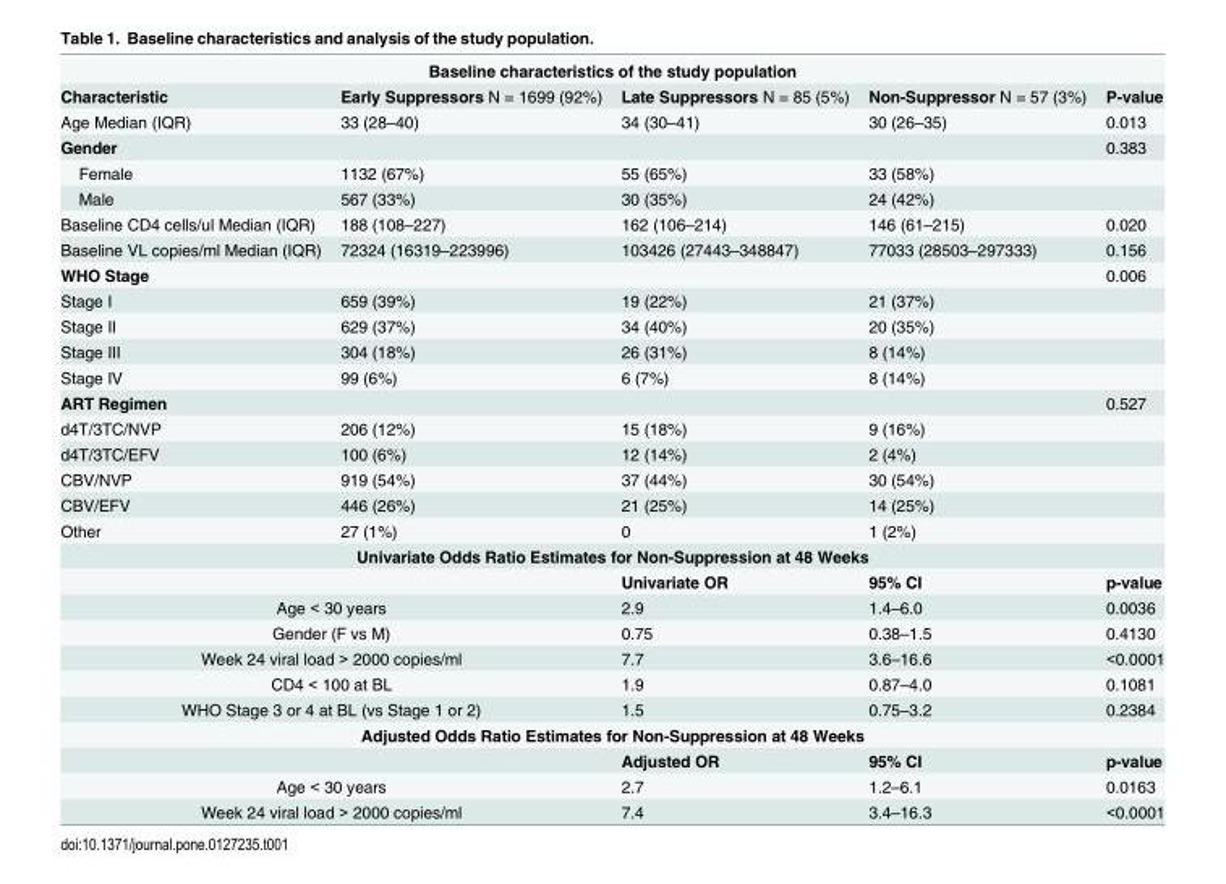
<table><tbody><tr><td colspan="5">Baseline characteristics of the study population</td></tr><tr><td>Characteristic</td><td>Early Suppressors N = 1699 (92%)</td><td>Late Suppressors N = 85 (5%)</td><td>Non-Suppressor N = 57 (3%)</td><td>P-value</td></tr><tr><td>Age Median (IQR)</td><td>33 (28–40)</td><td>34 (30–41)</td><td>30 (26–35)</td><td>0.013</td></tr><tr><td>Gender</td><td></td><td></td><td></td><td>0.383</td></tr><tr><td>Female</td><td>1132 (67%)</td><td>55 (65%)</td><td>33 (58%)</td><td></td></tr><tr><td>Male</td><td>567 (33%)</td><td>30 (35%)</td><td>24 (42%)</td><td></td></tr><tr><td>Baseline CD4 cells/ul Median (IQR)</td><td>188 (108–227)</td><td>162 (106–214)</td><td>146 (61–215)</td><td>0.020</td></tr><tr><td>Baseline VL copies/ml Median (IQR)</td><td>72324 (16319–223996)</td><td>103426 (27443–348847)</td><td>77033 (28503–297333)</td><td>0.156</td></tr><tr><td>WHO Stage</td><td></td><td></td><td></td><td>0.006</td></tr><tr><td>Stage I</td><td>659 (39%)</td><td>19 (22%)</td><td>21 (37%)</td><td></td></tr><tr><td>Stage II</td><td>629 (37%)</td><td>34 (40%)</td><td>20 (35%)</td><td></td></tr><tr><td>Stage III</td><td>304 (18%)</td><td>26 (31%)</td><td>8 (14%)</td><td></td></tr><tr><td>Stage IV</td><td>99 (6%)</td><td>6 (7%)</td><td>8 (14%)</td><td></td></tr><tr><td>ART Regimen</td><td></td><td></td><td></td><td>0.527</td></tr><tr><td>d4T/3TC/NVP</td><td>206 (12%)</td><td>15 (18%)</td><td>9 (16%)</td><td></td></tr><tr><td>d4T/3TC/EFV</td><td>100 (6%)</td><td>12 (14%)</td><td>2 (4%)</td><td></td></tr><tr><td>CBV/NVP</td><td>919 (54%)</td><td>37 (44%)</td><td>30 (54%)</td><td></td></tr><tr><td>CBV/EFV</td><td>446 (26%)</td><td>21 (25%)</td><td>14 (25%)</td><td></td></tr><tr><td>Other</td><td>27 (1%)</td><td>0</td><td>1 (2%)</td><td></td></tr><tr><td colspan="5">Univariate Odds Ratio Estimates for Non-Suppression at 48 Weeks</td></tr><tr><td colspan="2"></td><td>Univariate OR</td><td>95% CI</td><td>p-value</td></tr><tr><td colspan="2">Age &lt; 30 years</td><td>2.9</td><td>1.4–6.0</td><td>0.0036</td></tr><tr><td colspan="2">Gender (F vs M)</td><td>0.75</td><td>0.38–1.5</td><td>0.4130</td></tr><tr><td colspan="2">Week 24 viral load &gt; 2000 copies/ml</td><td>7.7</td><td>3.6–16.6</td><td>&lt;0.0001</td></tr><tr><td colspan="2">CD4 &lt; 100 at BL</td><td>1.9</td><td>0.87–4.0</td><td>0.1081</td></tr><tr><td colspan="2">WHO Stage 3 or 4 at BL (vs Stage 1 or 2)</td><td>1.5</td><td>0.75–3.2</td><td>0.2384</td></tr><tr><td colspan="5">Adjusted Odds Ratio Estimates for Non-Suppression at 48 Weeks</td></tr><tr><td colspan="2"></td><td>Adjusted OR</td><td>95% CI</td><td>p-value</td></tr><tr><td colspan="2">Age &lt; 30 years</td><td>2.7</td><td>1.2–6.1</td><td>0.0163</td></tr><tr><td colspan="2">Week 24 viral load &gt; 2000 copies/ml</td><td>7.4</td><td>3.4–16.3</td><td>&lt;0.0001</td></tr></tbody></table>